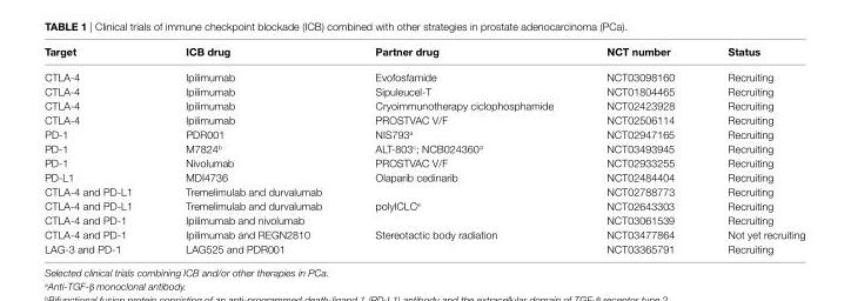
<table><thead><tr><td>Target</td><td>iCB drug</td><td>Partner drug</td><td>nCT number</td><td>Status</td></tr></thead><tbody><tr><td>CTLA-4</td><td>Ipilimumab</td><td>Evofosfamide</td><td>NCT03098160</td><td>Recruiting</td></tr><tr><td>CTLA-4</td><td>Ipilimumab</td><td>Sipuleucel-T</td><td>NCT01804465</td><td>Recruiting</td></tr><tr><td>CTLA-4</td><td>Ipilimumab</td><td>Cryoimmunotherapy ciclophosphamide</td><td>NCT02423928</td><td>Recruiting</td></tr><tr><td>CTLA-4</td><td>Ipilimumab</td><td>PROSTVAC V/F</td><td>NCT02506114</td><td>Recruiting</td></tr><tr><td>PD-1</td><td>PDR001</td><td>NIS793<sup>a</sup></td><td>NCT02947165</td><td>Recruiting</td></tr><tr><td>PD-1</td><td>M7824<sup>b</sup></td><td>ALT-803<sup>c</sup>; NCB024360<sup>d</sup></td><td>NCT03493945</td><td>Recruiting</td></tr><tr><td>PD-1</td><td>Nivolumab</td><td>PROSTVAC V/F</td><td>NCT02933255</td><td>Recruiting</td></tr><tr><td>PD-L1</td><td>MDI4736</td><td>Olaparib cedinarib</td><td>NCT02484404</td><td>Recruiting</td></tr><tr><td>CTLA-4 and PD-L1</td><td>Tremelimulab and durvalumab</td><td></td><td>NCT02788773</td><td>Recruiting</td></tr><tr><td>CTLA-4 and PD-L1</td><td>Tremelimulab and durvalumab</td><td>polyICLC<sup>e</sup></td><td>NCT02643303</td><td>Recruiting</td></tr><tr><td>CTLA-4 and PD-1</td><td>Ipilimumab and nivolumab</td><td></td><td>NCT03061539</td><td>Recruiting</td></tr><tr><td>CTLA-4 and PD-1</td><td>Ipilimumab and REGN2810</td><td>Stereotactic body radiation</td><td>NCT03477864</td><td>Not yet recruiting</td></tr><tr><td>LAG-3 and PD-1</td><td>LAG525 and PDR001</td><td></td><td>NCT03365791</td><td>Recruiting</td></tr></tbody></table>